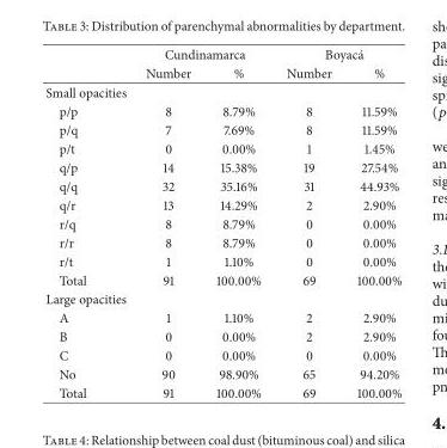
<table><thead><tr><td rowspan="2"></td><td colspan="2">Cundinamarca</td><td colspan="2">Boyac´a</td></tr><tr><td>Number</td><td>%</td><td>Number</td><td>%</td></tr></thead><tbody><tr><td colspan="5">Small opacities</td></tr><tr><td>p/p</td><td>8</td><td>8.79%</td><td>8</td><td>11.59%</td></tr><tr><td>p/q</td><td>7</td><td>7.69%</td><td>8</td><td>11.59%</td></tr><tr><td>p/t</td><td>0</td><td>0.00%</td><td>1</td><td>1.45%</td></tr><tr><td>q/p</td><td>14</td><td>15.38%</td><td>19</td><td>27.54%</td></tr><tr><td>q/q</td><td>32</td><td>35.16%</td><td>31</td><td>44.93%</td></tr><tr><td>q/r</td><td>13</td><td>14.29%</td><td>2</td><td>2.90%</td></tr><tr><td>r/q</td><td>8</td><td>8.79%</td><td>0</td><td>0.00%</td></tr><tr><td>r/r</td><td>8</td><td>8.79%</td><td>0</td><td>0.00%</td></tr><tr><td>r/t</td><td>1</td><td>1.10%</td><td>0</td><td>0.00%</td></tr><tr><td>Total</td><td>91</td><td>100.00%</td><td>69</td><td>100.00%</td></tr><tr><td colspan="5">Large opacities</td></tr><tr><td>A</td><td>1</td><td>1.10%</td><td>2</td><td>2.90%</td></tr><tr><td>B</td><td>0</td><td>0.00%</td><td>2</td><td>2.90%</td></tr><tr><td>C</td><td>0</td><td>0.00%</td><td>0</td><td>0.00%</td></tr><tr><td>No</td><td>90</td><td>98.90%</td><td>65</td><td>94.20%</td></tr><tr><td>Total</td><td>91</td><td>100.00%</td><td>69</td><td>100.00%</td></tr></tbody></table>